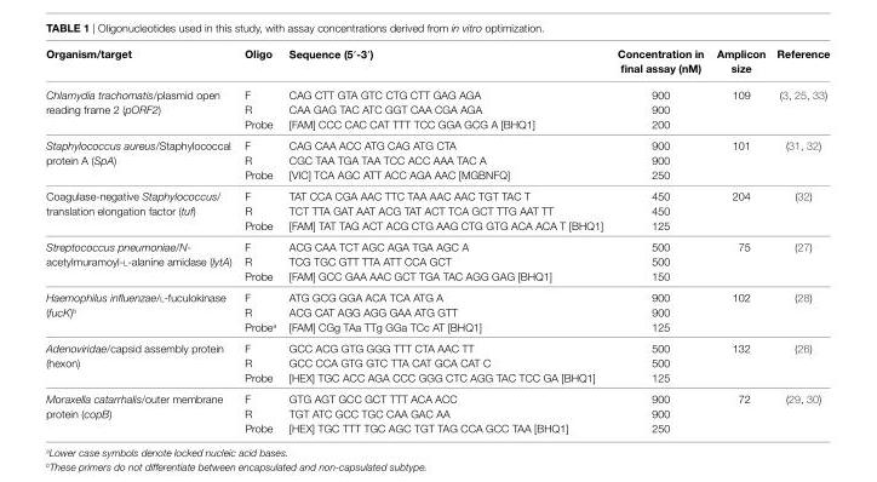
<table><thead><tr><td>Organism/target</td><td>Oligo</td><td>sequence (5′-3′)</td><td>concentration in final assay (nM)</td><td>amplicon size</td><td>reference</td></tr></thead><tbody><tr><td rowspan="3">Chlamydia trachomatis/plasmid open reading frame 2 (pORF2)</td><td>F</td><td>CAG CTT GTA GTC CTG CTT GAG AGA</td><td>900</td><td rowspan="3">109</td><td rowspan="3">(3, 25, 33)</td></tr><tr><td>R</td><td>CAA GAG TAC ATC GGT CAA CGA AGA</td><td>900</td></tr><tr><td>Probe</td><td>[FAM] CCC CAC CAT TTT TCC GGA GCG A [BHQ1]</td><td>200</td></tr><tr><td rowspan="3">Staphylococcus aureus/Staphylococcal protein A (SpA)</td><td>F</td><td>CAG CAA ACC ATG CAG ATG CTA</td><td>900</td><td rowspan="3">101</td><td rowspan="3">(31, 32)</td></tr><tr><td>R</td><td>CGC TAA TGA TAA TCC ACC AAA TAC A</td><td>900</td></tr><tr><td>Probe</td><td>[VIC] TCA AGC ATT ACC AGA AAC [MGBNFQ]</td><td>250</td></tr><tr><td rowspan="3">Coagulase-negative Staphylococcus/ translation elongation factor (tuf)</td><td>F</td><td>TAT CCA CGA AAC TTC TAA AAC AAC TGT TAC T</td><td>450</td><td rowspan="3">204</td><td rowspan="3">(32)</td></tr><tr><td>R</td><td>TCT TTA GAT AAT ACG TAT ACT TCA GCT TTG AAT TT</td><td>450</td></tr><tr><td>Probe</td><td>[FAM] TAT TAG ACT ACG CTG AAG CTG GTG ACA ACA T [BHQ1]</td><td>125</td></tr><tr><td rowspan="3">Streptococcus pneumoniae/N- acetylmuramoyl-l-alanine amidase (lytA)</td><td>F</td><td>ACG CAA TCT AGC AGA TGA AGC A</td><td>500</td><td rowspan="3">75</td><td rowspan="3">(27)</td></tr><tr><td>R</td><td>TCG TGC GTT TTA ATT CCA GCT</td><td>500</td></tr><tr><td>Probe</td><td>[FAM] GCC GAA AAC GCT TGA TAC AGG GAG [BHQ1]</td><td>150</td></tr><tr><td rowspan="3">Haemophilus influenzae/l-fuculokinase (fucK)<sup>b</sup></td><td>F</td><td>ATG GCG GGA ACA TCA ATG A</td><td>900</td><td rowspan="3">102</td><td rowspan="3">(28)</td></tr><tr><td>R</td><td>ACG CAT AGG AGG GAA ATG GTT</td><td>900</td></tr><tr><td>Probe<sup>a</sup></td><td>[FAM] CGg TAa TTg GGa TCc AT [BHQ1]</td><td>125</td></tr><tr><td rowspan="3">Adenoviridae/capsid assembly protein (hexon)</td><td>F</td><td>GCC ACG GTG GGG TTT CTA AAC TT</td><td>500</td><td rowspan="3">132</td><td rowspan="3">(26)</td></tr><tr><td>R</td><td>GCC CCA GTG GTC TTA CAT GCA CAT C</td><td>500</td></tr><tr><td>Probe</td><td>[HEX] TGC ACC AGA CCC GGG CTC AGG TAC TCC GA [BHQ1]</td><td>125</td></tr><tr><td rowspan="3">Moraxella catarrhalis/outer membrane protein (copB)</td><td>F</td><td>GTG AGT GCC GCT TTT ACA ACC</td><td>900</td><td rowspan="3">72</td><td rowspan="3">(29, 30)</td></tr><tr><td>R</td><td>TGT ATC GCC TGC CAA GAC AA</td><td>900</td></tr><tr><td>Probe</td><td>[HEX] TGC TTT TGC AGC TGT TAG CCA GCC TAA [BHQ1]</td><td>250</td></tr></tbody></table>